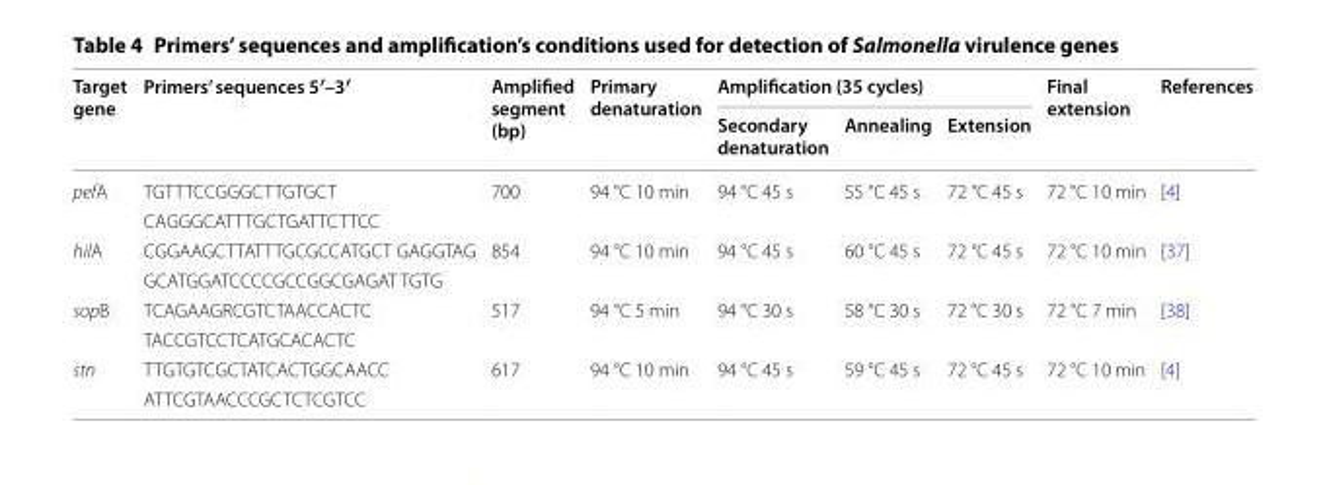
<table><thead><tr><td rowspan="2">Target gene</td><td rowspan="2">Primers’ sequences 5′–3′</td><td rowspan="2">Amplified segment (bp)</td><td rowspan="2">Primary denaturation</td><td colspan="3">Amplification (35 cycles)</td><td rowspan="2">Final extension</td><td rowspan="2">References</td></tr><tr><td>Secondary denaturation</td><td>Annealing</td><td>Extension</td></tr></thead><tbody><tr><td rowspan="2">pefA</td><td>TGTTTCCGGGCTTGTGCT</td><td rowspan="2">700</td><td rowspan="2">94 °C 10 min</td><td rowspan="2">94 °C 45 s</td><td rowspan="2">55 °C 45 s</td><td rowspan="2">72 °C 45 s</td><td rowspan="2">72 °C 10 min</td><td rowspan="2">[4]</td></tr><tr><td>CAGGGCATTTGCTGATTCTTCC</td></tr><tr><td rowspan="2">hilA</td><td>CGGAAGCTTATTTGCGCCATGCT GAGGTAG</td><td rowspan="2">854</td><td rowspan="2">94 °C 10 min</td><td rowspan="2">94 °C 45 s</td><td rowspan="2">60 °C 45 s</td><td rowspan="2">72 °C 45 s</td><td rowspan="2">72 °C 10 min</td><td rowspan="2">[37]</td></tr><tr><td>GCATGGATCCCCGCCGGCGAGAT TGTG</td></tr><tr><td rowspan="2">sopB</td><td>TCAGAAGRCGTCTAACCACTC</td><td rowspan="2">517</td><td rowspan="2">94 °C 5 min</td><td rowspan="2">94 °C 30 s</td><td rowspan="2">58 °C 30 s</td><td rowspan="2">72 °C 30 s</td><td rowspan="2">72 °C 7 min</td><td rowspan="2">[38]</td></tr><tr><td>TACCGTCCTCATGCACACTC</td></tr><tr><td rowspan="2">stn</td><td>TTGTGTCGCTATCACTGGCAACC</td><td rowspan="2">617</td><td rowspan="2">94 °C 10 min</td><td rowspan="2">94 °C 45 s</td><td rowspan="2">59 °C 45 s</td><td rowspan="2">72 °C 45 s</td><td rowspan="2">72 °C 10 min</td><td rowspan="2">[4]</td></tr><tr><td>ATTCGTAACCCGCTCTCGTCC</td></tr></tbody></table>